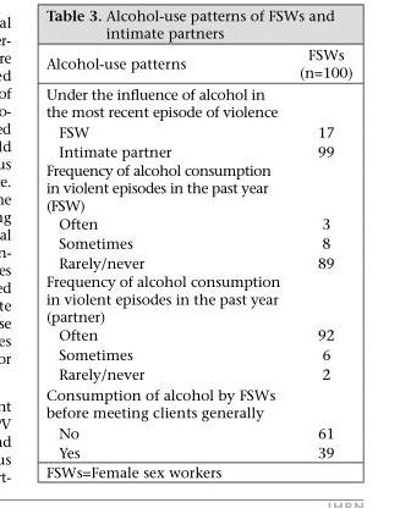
<table><thead><tr><td>Alcohol-use patterns</td><td>FSWs (n=100)</td></tr></thead><tbody><tr><td colspan="2">Under the influence of alcohol in the most recent episode of violence</td></tr><tr><td>FSW</td><td>17</td></tr><tr><td>Intimate partner</td><td>99</td></tr><tr><td colspan="2">Frequency of alcohol consumption in violent episodes in the past year (FSW)</td></tr><tr><td>Often</td><td>3</td></tr><tr><td>Sometimes</td><td>8</td></tr><tr><td>Rarely/never</td><td>89</td></tr><tr><td colspan="2">Frequency of alcohol consumption in violent episodes in the past year (partner)</td></tr><tr><td>Often</td><td>92</td></tr><tr><td>Sometimes</td><td>6</td></tr><tr><td>Rarely/never</td><td>2</td></tr><tr><td colspan="2">Consumption of alcohol by FSWs before meeting clients generally</td></tr><tr><td>No</td><td>61</td></tr><tr><td>Yes</td><td>39</td></tr></tbody></table>